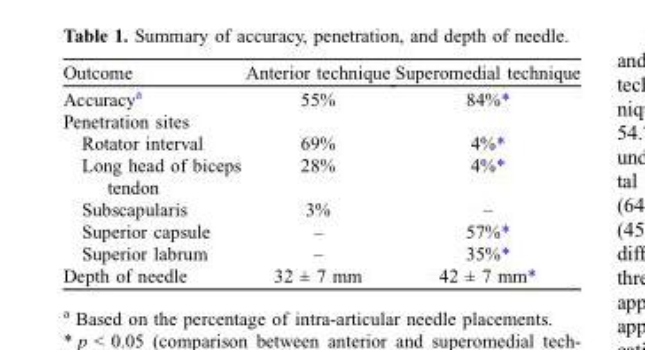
<table><thead><tr><td>Outcome</td><td>Anterior technique</td><td>Superomedial technique</td></tr></thead><tbody><tr><td>Accuracy<sup>a</sup></td><td>55%</td><td>84%*</td></tr><tr><td colspan="3">Penetration sites</td></tr><tr><td>Rotator interval</td><td>69%</td><td>4%*</td></tr><tr><td>Long head of biceps tendon</td><td>28%</td><td>4%*</td></tr><tr><td>Subscapularis</td><td>3%</td><td>–</td></tr><tr><td>Superior capsule</td><td>–</td><td>57%*</td></tr><tr><td>Superior labrum</td><td>–</td><td>35%*</td></tr><tr><td>Depth of needle</td><td>32 ± 7 mm</td><td>42 ± 7 mm*</td></tr></tbody></table>